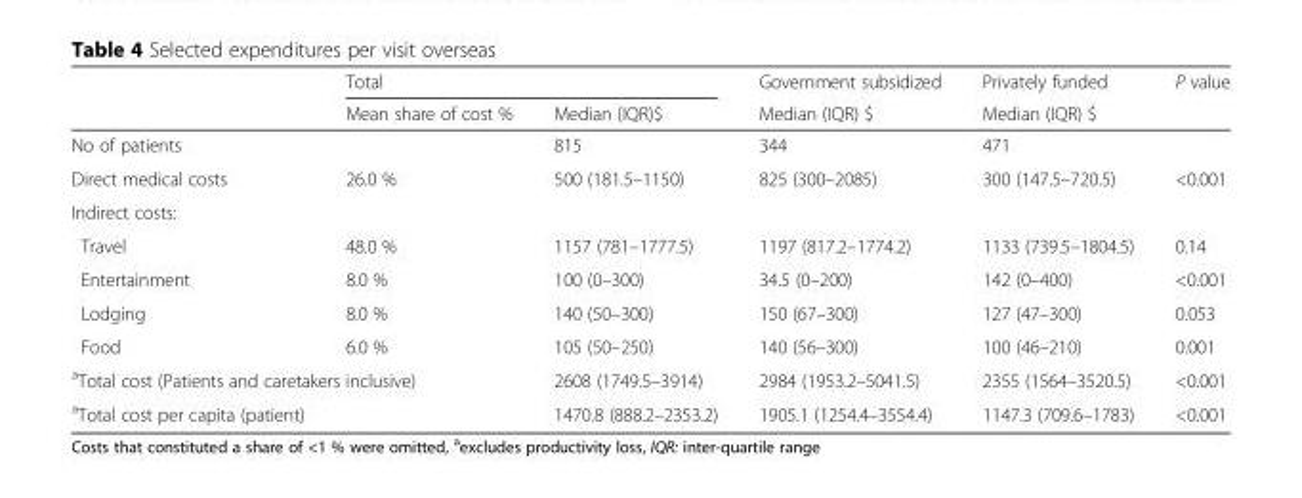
<table><thead><tr><td rowspan="2"></td><td colspan="2">Total</td><td rowspan="2">Government subsidized Median (IQR) $</td><td rowspan="2">Privately funded Median (IQR) $</td><td rowspan="2">P value</td></tr><tr><td>Mean share of cost %</td><td>Median (IQR)$</td></tr></thead><tbody><tr><td>No of patients</td><td></td><td>815</td><td>344</td><td>471</td><td></td></tr><tr><td>Direct medical costs</td><td>26.0 %</td><td>500 (181.5–1150)</td><td>825 (300–2085)</td><td>300 (147.5–720.5)</td><td>&lt;0.001</td></tr><tr><td colspan="6">Indirect costs:</td></tr><tr><td>Travel</td><td>48.0 %</td><td>1157 (781–1777.5)</td><td>1197 (817.2–1774.2)</td><td>1133 (739.5–1804.5)</td><td>0.14</td></tr><tr><td>Entertainment</td><td>8.0 %</td><td>100 (0–300)</td><td>34.5 (0–200)</td><td>142 (0–400)</td><td>&lt;0.001</td></tr><tr><td>Lodging</td><td>8.0 %</td><td>140 (50–300)</td><td>150 (67–300)</td><td>127 (47–300)</td><td>0.053</td></tr><tr><td>Food</td><td>6.0 %</td><td>105 (50–250)</td><td>140 (56–300)</td><td>100 (46–210)</td><td>0.001</td></tr><tr><td colspan="2"><sup>a</sup>Total cost (Patients and caretakers inclusive)</td><td>2608 (1749.5–3914)</td><td>2984 (1953.2–5041.5)</td><td>2355 (1564–3520.5)</td><td>&lt;0.001</td></tr><tr><td><sup>a</sup>Total cost per capita (patient)</td><td></td><td>1470.8 (888.2–2353.2)</td><td>1905.1 (1254.4–3554.4)</td><td>1147.3 (709.6–1783)</td><td>&lt;0.001</td></tr></tbody></table>